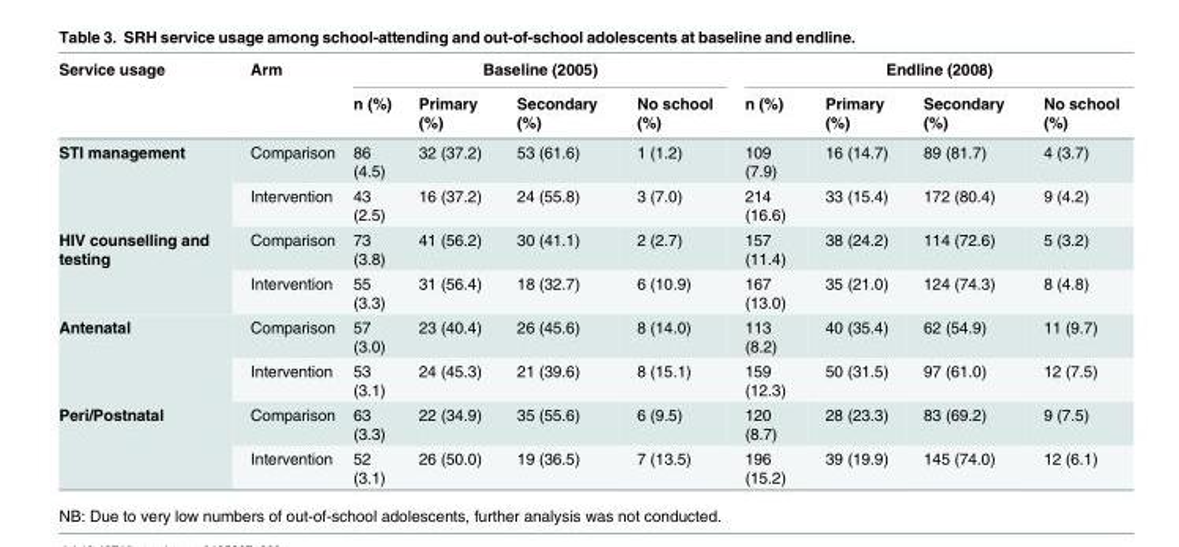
<table><thead><tr><td rowspan="2">Service usage</td><td rowspan="2">Arm</td><td colspan="4">Baseline (2005)</td><td colspan="4">Endline (2008)</td></tr><tr><td>n (%)</td><td>Primary (%)</td><td>Secondary (%)</td><td>No school (%)</td><td>n (%)</td><td>Primary (%)</td><td>Secondary (%)</td><td>No school (%)</td></tr></thead><tbody><tr><td rowspan="2">STI management</td><td>Comparison</td><td>86 (4.5)</td><td>32 (37.2)</td><td>53 (61.6)</td><td>1 (1.2)</td><td>109 (7.9)</td><td>16 (14.7)</td><td>89 (81.7)</td><td>4 (3.7)</td></tr><tr><td>Intervention</td><td>43 (2.5)</td><td>16 (37.2)</td><td>24 (55.8)</td><td>3 (7.0)</td><td>214 (16.6)</td><td>33 (15.4)</td><td>172 (80.4)</td><td>9 (4.2)</td></tr><tr><td rowspan="2">HIV counselling and testing</td><td>Comparison</td><td>73 (3.8)</td><td>41 (56.2)</td><td>30 (41.1)</td><td>2 (2.7)</td><td>157 (11.4)</td><td>38 (24.2)</td><td>114 (72.6)</td><td>5 (3.2)</td></tr><tr><td>Intervention</td><td>55 (3.3)</td><td>31 (56.4)</td><td>18 (32.7)</td><td>6 (10.9)</td><td>167 (13.0)</td><td>35 (21.0)</td><td>124 (74.3)</td><td>8 (4.8)</td></tr><tr><td rowspan="2">Antenatal</td><td>Comparison</td><td>57 (3.0)</td><td>23 (40.4)</td><td>26 (45.6)</td><td>8 (14.0)</td><td>113 (8.2)</td><td>40 (35.4)</td><td>62 (54.9)</td><td>11 (9.7)</td></tr><tr><td>Intervention</td><td>53 (3.1)</td><td>24 (45.3)</td><td>21 (39.6)</td><td>8 (15.1)</td><td>159 (12.3)</td><td>50 (31.5)</td><td>97 (61.0)</td><td>12 (7.5)</td></tr><tr><td rowspan="2">Peri/Postnatal</td><td>Comparison</td><td>63 (3.3)</td><td>22 (34.9)</td><td>35 (55.6)</td><td>6 (9.5)</td><td>120 (8.7)</td><td>28 (23.3)</td><td>83 (69.2)</td><td>9 (7.5)</td></tr><tr><td>Intervention</td><td>52 (3.1)</td><td>26 (50.0)</td><td>19 (36.5)</td><td>7 (13.5)</td><td>196 (15.2)</td><td>39 (19.9)</td><td>145 (74.0)</td><td>12 (6.1)</td></tr></tbody></table>